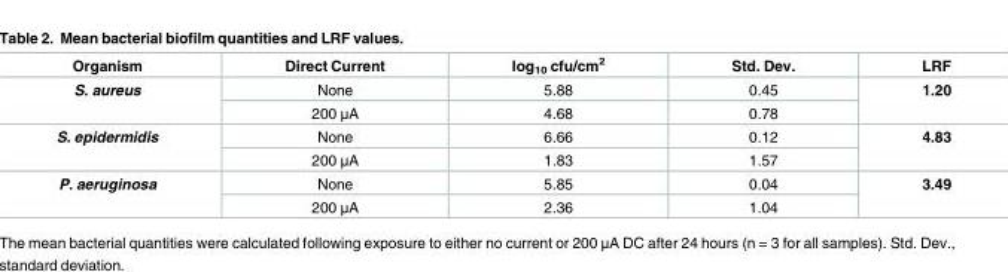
<table><thead><tr><td>Organism</td><td>Direct Current</td><td>log<sub>10</sub> cfu/cm<sup>2</sup></td><td>Std. Dev.</td><td>LRF</td></tr></thead><tbody><tr><td rowspan="2">S. aureus</td><td>None</td><td>5.88</td><td>0.45</td><td rowspan="2">1.20</td></tr><tr><td>200 μA</td><td>4.68</td><td>0.78</td></tr><tr><td rowspan="2">S. epidermidis</td><td>None</td><td>6.66</td><td>0.12</td><td rowspan="2">4.83</td></tr><tr><td>200 μA</td><td>1.83</td><td>1.57</td></tr><tr><td rowspan="2">P. aeruginosa</td><td>None</td><td>5.85</td><td>0.04</td><td rowspan="2">3.49</td></tr><tr><td>200 μA</td><td>2.36</td><td>1.04</td></tr></tbody></table>